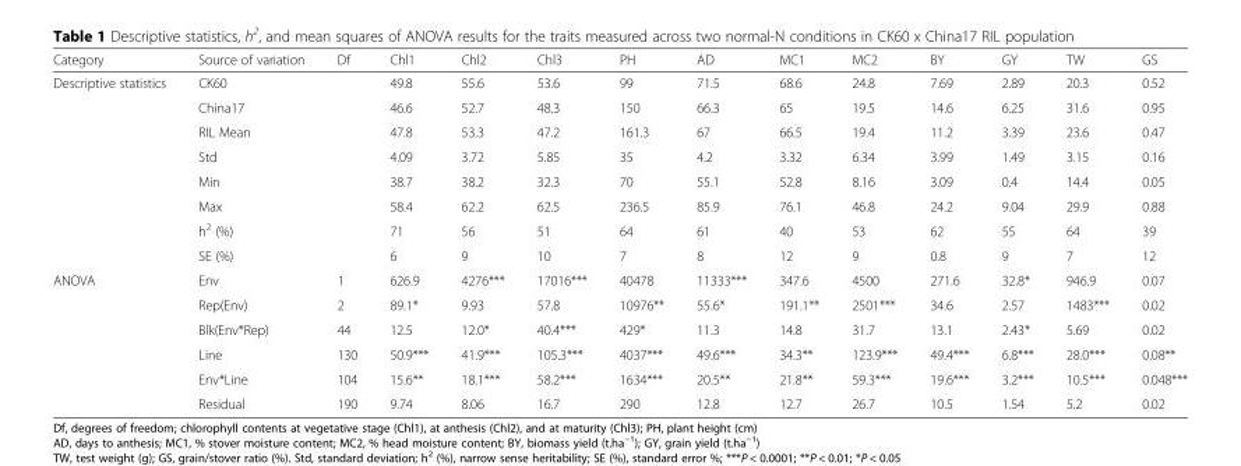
<table><thead><tr><td>Category</td><td>Source of variation</td><td>Df</td><td>Chl1</td><td>Chl2</td><td>Chl3</td><td>PH</td><td>AD</td><td>MC1</td><td>MC2</td><td>BY</td><td>GY</td><td>TW</td><td>GS</td></tr></thead><tbody><tr><td rowspan="8">Descriptive statistics</td><td>CK60</td><td></td><td>49.8</td><td>55.6</td><td>53.6</td><td>99</td><td>71.5</td><td>68.6</td><td>24.8</td><td>7.69</td><td>2.89</td><td>20.3</td><td>0.52</td></tr><tr><td>China17</td><td></td><td>46.6</td><td>52.7</td><td>48.3</td><td>150</td><td>66.3</td><td>65</td><td>19.5</td><td>14.6</td><td>6.25</td><td>31.6</td><td>0.95</td></tr><tr><td>RIL Mean</td><td></td><td>47.8</td><td>53.3</td><td>47.2</td><td>161.3</td><td>67</td><td>66.5</td><td>19.4</td><td>11.2</td><td>3.39</td><td>23.6</td><td>0.47</td></tr><tr><td>Std</td><td></td><td>4.09</td><td>3.72</td><td>5.85</td><td>35</td><td>4.2</td><td>3.32</td><td>6.34</td><td>3.99</td><td>1.49</td><td>3.15</td><td>0.16</td></tr><tr><td>Min</td><td></td><td>38.7</td><td>38.2</td><td>32.3</td><td>70</td><td>55.1</td><td>52.8</td><td>8.16</td><td>3.09</td><td>0.4</td><td>14.4</td><td>0.05</td></tr><tr><td>Max</td><td></td><td>58.4</td><td>62.2</td><td>62.5</td><td>236.5</td><td>85.9</td><td>76.1</td><td>46.8</td><td>24.2</td><td>9.04</td><td>29.9</td><td>0.88</td></tr><tr><td>h<sup>2</sup> (%)</td><td></td><td>71</td><td>56</td><td>51</td><td>64</td><td>61</td><td>40</td><td>53</td><td>62</td><td>55</td><td>64</td><td>39</td></tr><tr><td>SE (%)</td><td></td><td>6</td><td>9</td><td>10</td><td>7</td><td>8</td><td>12</td><td>9</td><td>0.8</td><td>9</td><td>7</td><td>12</td></tr><tr><td rowspan="6">ANOVA</td><td>Env</td><td>1</td><td>626.9</td><td>4276***</td><td>17016***</td><td>40478</td><td>11333***</td><td>347.6</td><td>4500</td><td>271.6</td><td>32.8*</td><td>946.9</td><td>0.07</td></tr><tr><td>Rep(Env)</td><td>2</td><td>89.1*</td><td>9.93</td><td>57.8</td><td>10976**</td><td>55.6*</td><td>191.1**</td><td>2501***</td><td>34.6</td><td>2.57</td><td>1483***</td><td>0.02</td></tr><tr><td>Blk(Env*Rep)</td><td>44</td><td>12.5</td><td>12.0*</td><td>40.4***</td><td>429*</td><td>11.3</td><td>14.8</td><td>31.7</td><td>13.1</td><td>2.43*</td><td>5.69</td><td>0.02</td></tr><tr><td>Line</td><td>130</td><td>50.9***</td><td>41.9***</td><td>105.3***</td><td>4037***</td><td>49.6***</td><td>34.3**</td><td>123.9***</td><td>49.4***</td><td>6.8***</td><td>28.0***</td><td>0.08**</td></tr><tr><td>Env*Line</td><td>104</td><td>15.6**</td><td>18.1***</td><td>58.2***</td><td>1634***</td><td>20.5**</td><td>21.8**</td><td>59.3***</td><td>19.6***</td><td>3.2***</td><td>10.5***</td><td>0.048***</td></tr><tr><td>Residual</td><td>190</td><td>9.74</td><td>8.06</td><td>16.7</td><td>290</td><td>12.8</td><td>12.7</td><td>26.7</td><td>10.5</td><td>1.54</td><td>5.2</td><td>0.02</td></tr></tbody></table>